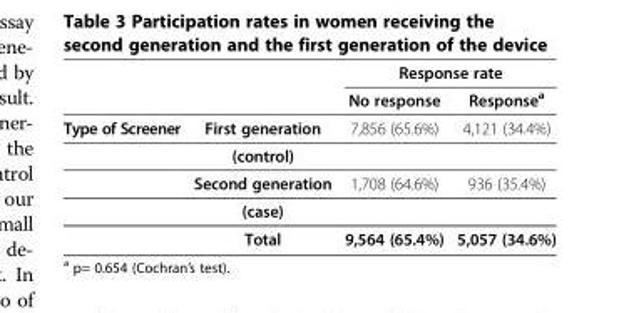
<table><thead><tr><td rowspan="2"></td><td rowspan="2"></td><td colspan="2">Response rate</td></tr><tr><td>No response</td><td>Response<sup>a</sup></td></tr></thead><tbody><tr><td rowspan="5">Type of Screener</td><td>First generation</td><td>7,856 (65.6%)</td><td>4,121 (34.4%)</td></tr><tr><td>(control)</td><td></td><td></td></tr><tr><td>Second generation</td><td>1,708 (64.6%)</td><td>936 (35.4%)</td></tr><tr><td>(case)</td><td></td><td></td></tr><tr><td>Total</td><td>9,564 (65.4%)</td><td>5,057 (34.6%)</td></tr></tbody></table>